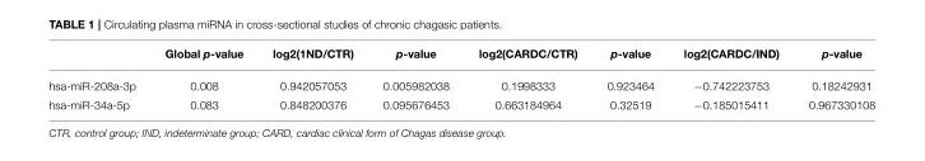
<table><thead><tr><td></td><td>Global p-value</td><td>log2(1ND/CTR)</td><td>p-value</td><td>log2(CARDC/CTR)</td><td>p-value</td><td>log2(CARDC/IND)</td><td>p-value</td></tr></thead><tbody><tr><td>hsa-miR-208a-3p</td><td>0.008</td><td>0.942057053</td><td>0.005982038</td><td>0.1998333</td><td>0.923464</td><td>−0.742223753</td><td>0.18242931</td></tr><tr><td>hsa-miR-34a-5p</td><td>0.083</td><td>0.848200376</td><td>0.095676453</td><td>0.663184964</td><td>0.32519</td><td>−0.185015411</td><td>0.967330108</td></tr></tbody></table>